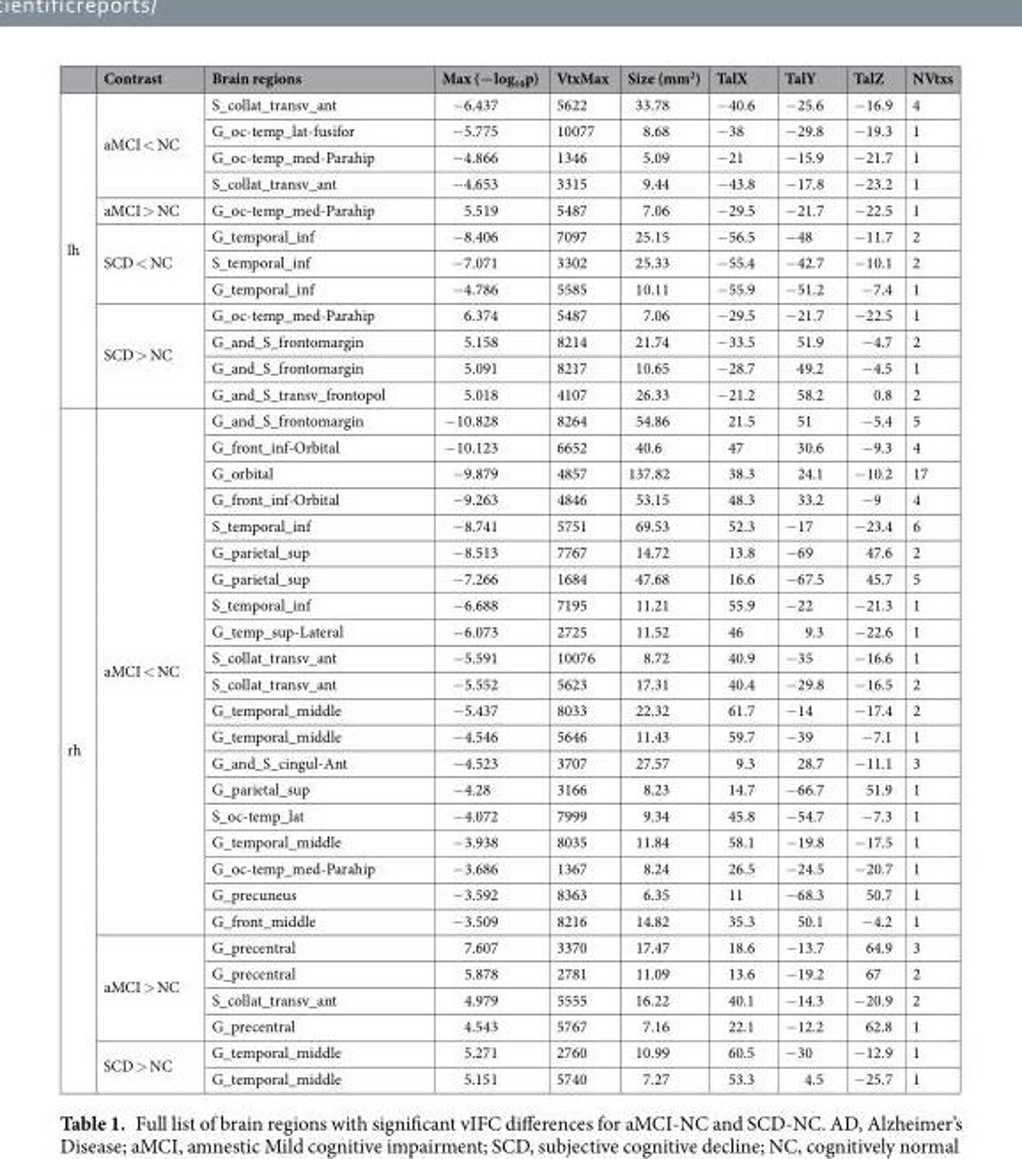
<table><thead><tr><td></td><td>Contrast</td><td>Brain regions</td><td>Max (−log<sub>10</sub>p)</td><td>VtxMax</td><td>Size (mm<sup>2</sup>)</td><td>TalX</td><td>TalY</td><td>TalZ</td><td>NVtxs</td></tr></thead><tbody><tr><td rowspan="12">lh</td><td rowspan="4">aMCI &lt; NC</td><td>S_collat_transv_ant</td><td>−6.437</td><td>5622</td><td>33.78</td><td>−40.6</td><td>−25.6</td><td>−16.9</td><td>4</td></tr><tr><td>G_oc-temp_lat-fusifor</td><td>−5.775</td><td>10077</td><td>8.68</td><td>−38</td><td>−29.8</td><td>−19.3</td><td>1</td></tr><tr><td>G_oc-temp_med-Parahip</td><td>−4.866</td><td>1346</td><td>5.09</td><td>−21</td><td>−15.9</td><td>−21.7</td><td>1</td></tr><tr><td>S_collat_transv_ant</td><td>−4.653</td><td>3315</td><td>9.44</td><td>−43.8</td><td>−17.8</td><td>−23.2</td><td>1</td></tr><tr><td>aMCI &gt; NC</td><td>G_oc-temp_med-Parahip</td><td>5.519</td><td>5487</td><td>7.06</td><td>−29.5</td><td>−21.7</td><td>−22.5</td><td>1</td></tr><tr><td rowspan="3">SCD &lt; NC</td><td>G_temporal_inf</td><td>−8.406</td><td>7097</td><td>25.15</td><td>−56.5</td><td>−48</td><td>−11.7</td><td>2</td></tr><tr><td>S_temporal_inf</td><td>−7.071</td><td>3302</td><td>25.33</td><td>−55.4</td><td>−42.7</td><td>−10.1</td><td>2</td></tr><tr><td>G_temporal_inf</td><td>−4.786</td><td>5585</td><td>10.11</td><td>−55.9</td><td>−51.2</td><td>−7.4</td><td>1</td></tr><tr><td rowspan="4">SCD &gt; NC</td><td>G_oc-temp_med-Parahip</td><td>6.374</td><td>5487</td><td>7.06</td><td>−29.5</td><td>−21.7</td><td>−22.5</td><td>1</td></tr><tr><td>G_and_S_frontomargin</td><td>5.158</td><td>8214</td><td>21.74</td><td>−33.5</td><td>51.9</td><td>−4.7</td><td>2</td></tr><tr><td>G_and_S_frontomargin</td><td>5.091</td><td>8217</td><td>10.65</td><td>−28.7</td><td>49.2</td><td>−4.5</td><td>1</td></tr><tr><td>G_and_S_transv_frontopol</td><td>5.018</td><td>4107</td><td>26.33</td><td>−21.2</td><td>58.2</td><td>0.8</td><td>2</td></tr><tr><td rowspan="26">rh</td><td rowspan="20">aMCI &lt; NC</td><td>G_and_S_frontomargin</td><td>−10.828</td><td>8264</td><td>54.86</td><td>21.5</td><td>51</td><td>−5.4</td><td>5</td></tr><tr><td>G_front_inf-Orbital</td><td>−10.123</td><td>6652</td><td>40.6</td><td>47</td><td>30.6</td><td>−9.3</td><td>4</td></tr><tr><td>G_orbital</td><td>−9.879</td><td>4857</td><td>137.82</td><td>38.3</td><td>24.1</td><td>−10.2</td><td>17</td></tr><tr><td>G_front_inf-Orbital</td><td>−9.263</td><td>4846</td><td>53.15</td><td>48.3</td><td>33.2</td><td>−9</td><td>4</td></tr><tr><td>S_temporal_inf</td><td>−8.741</td><td>5751</td><td>69.53</td><td>52.3</td><td>−17</td><td>−23.4</td><td>6</td></tr><tr><td>G_parietal_sup</td><td>−8.513</td><td>7767</td><td>14.72</td><td>13.8</td><td>−69</td><td>47.6</td><td>2</td></tr><tr><td>G_parietal_sup</td><td>−7.266</td><td>1684</td><td>47.68</td><td>16.6</td><td>−67.5</td><td>45.7</td><td>5</td></tr><tr><td>S_temporal_inf</td><td>−6.688</td><td>7195</td><td>11.21</td><td>55.9</td><td>−22</td><td>−21.3</td><td>1</td></tr><tr><td>G_temp_sup-Lateral</td><td>−6.073</td><td>2725</td><td>11.52</td><td>46</td><td>9.3</td><td>−22.6</td><td>1</td></tr><tr><td>S_collat_transv_ant</td><td>−5.591</td><td>10076</td><td>8.72</td><td>40.9</td><td>−35</td><td>−16.6</td><td>1</td></tr><tr><td>S_collat_transv_ant</td><td>−5.552</td><td>5623</td><td>17.31</td><td>40.4</td><td>−29.8</td><td>−16.5</td><td>2</td></tr><tr><td>G_temporal_middle</td><td>−5.437</td><td>8033</td><td>22.32</td><td>61.7</td><td>−14</td><td>−17.4</td><td>2</td></tr><tr><td>G_temporal_middle</td><td>−4.546</td><td>5646</td><td>11.43</td><td>59.7</td><td>−39</td><td>−7.1</td><td>1</td></tr><tr><td>G_and_S_cingul-Ant</td><td>−4.523</td><td>3707</td><td>27.57</td><td>9.3</td><td>28.7</td><td>−11.1</td><td>3</td></tr><tr><td>G_parietal_sup</td><td>−4.28</td><td>3166</td><td>8.23</td><td>14.7</td><td>−66.7</td><td>51.9</td><td>1</td></tr><tr><td>S_oc-temp_lat</td><td>−4.072</td><td>7999</td><td>9.34</td><td>45.8</td><td>−54.7</td><td>−7.3</td><td>1</td></tr><tr><td>G_temporal_middle</td><td>−3.938</td><td>8035</td><td>11.84</td><td>58.1</td><td>−19.8</td><td>−17.5</td><td>1</td></tr><tr><td>G_oc-temp_med-Parahip</td><td>−3.686</td><td>1367</td><td>8.24</td><td>26.5</td><td>−24.5</td><td>−20.7</td><td>1</td></tr><tr><td>G_precuneus</td><td>−3.592</td><td>8363</td><td>6.35</td><td>11</td><td>−68.3</td><td>50.7</td><td>1</td></tr><tr><td>G_front_middle</td><td>−3.509</td><td>8216</td><td>14.82</td><td>35.3</td><td>50.1</td><td>−4.2</td><td>1</td></tr><tr><td rowspan="4">aMCI &gt; NC</td><td>G_precentral</td><td>7.607</td><td>3370</td><td>17.47</td><td>18.6</td><td>−13.7</td><td>64.9</td><td>3</td></tr><tr><td>G_precentral</td><td>5.878</td><td>2781</td><td>11.09</td><td>13.6</td><td>−19.2</td><td>67</td><td>2</td></tr><tr><td>S_collat_transv_ant</td><td>4.979</td><td>5555</td><td>16.22</td><td>40.1</td><td>−14.3</td><td>−20.9</td><td>2</td></tr><tr><td>G_precentral</td><td>4.543</td><td>5767</td><td>7.16</td><td>22.1</td><td>−12.2</td><td>62.8</td><td>1</td></tr><tr><td rowspan="2">SCD &gt; NC</td><td>G_temporal_middle</td><td>5.271</td><td>2760</td><td>10.99</td><td>60.5</td><td>−30</td><td>−12.9</td><td>1</td></tr><tr><td>G_temporal_middle</td><td>5.151</td><td>5740</td><td>7.27</td><td>53.3</td><td>4.5</td><td>−25.7</td><td>1</td></tr></tbody></table>